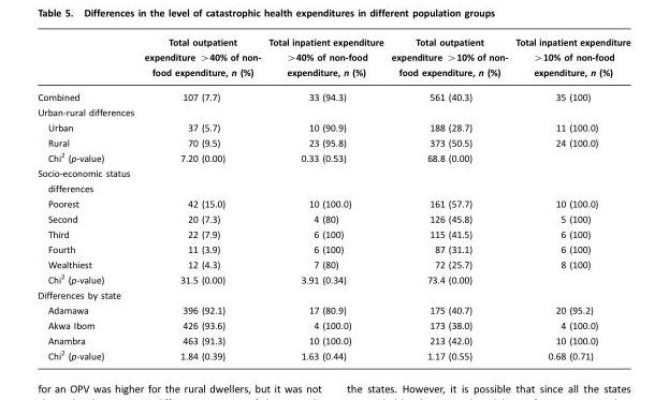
<table><thead><tr><td></td><td>Total outpatient expenditure &gt;40% of non- food expenditure, n (%)</td><td>Total inpatient expenditure &gt;40% of non-food expenditure, n (%)</td><td>Total outpatient expenditure &gt;10% of non- food expenditure, n (%)</td><td>Total inpatient expenditure &gt;10% of non-food expenditure, n (%)</td></tr></thead><tbody><tr><td>Combined</td><td>107 (7.7)</td><td>33 (94.3)</td><td>561 (40.3)</td><td>35 (100)</td></tr><tr><td colspan="5">Urban-rural differences</td></tr><tr><td>Urban</td><td>37 (5.7)</td><td>10 (90.9)</td><td>188 (28.7)</td><td>11 (100.0)</td></tr><tr><td>Rural</td><td>70 (9.5)</td><td>23 (95.8)</td><td>373 (50.5)</td><td>24 (100.0)</td></tr><tr><td>Chi<sup>2</sup> (p-value)</td><td>7.20 (0.00)</td><td>0.33 (0.53)</td><td>68.8 (0.00)</td><td></td></tr><tr><td colspan="5">Socio-economic status differences</td></tr><tr><td>Poorest</td><td>42 (15.0)</td><td>10 (100.0)</td><td>161 (57.7)</td><td>10 (100.0)</td></tr><tr><td>Second</td><td>20 (7.3)</td><td>4 (80)</td><td>126 (45.8)</td><td>5 (100)</td></tr><tr><td>Third</td><td>22 (7.9)</td><td>6 (100)</td><td>115 (41.5)</td><td>6 (100)</td></tr><tr><td>Fourth</td><td>11 (3.9)</td><td>6 (100)</td><td>87 (31.1)</td><td>6 (100)</td></tr><tr><td>Wealthiest</td><td>12 (4.3)</td><td>7 (80)</td><td>72 (25.7)</td><td>8 (100)</td></tr><tr><td>Chi<sup>2</sup> (p-value)</td><td>31.5 (0.00)</td><td>3.91 (0.34)</td><td>73.4 (0.00)</td><td></td></tr><tr><td colspan="5">Differences by state</td></tr><tr><td>Adamawa</td><td>396 (92.1)</td><td>17 (80.9)</td><td>175 (40.7)</td><td>20 (95.2)</td></tr><tr><td>Akwa Ibom</td><td>426 (93.6)</td><td>4 (100.0)</td><td>173 (38.0)</td><td>4 (100.0)</td></tr><tr><td>Anambra</td><td>463 (91.3)</td><td>10 (100.0)</td><td>213 (42.0)</td><td>10 (100.0)</td></tr><tr><td>Chi<sup>2</sup> (p-value)</td><td>1.84 (0.39)</td><td>1.63 (0.44)</td><td>1.17 (0.55)</td><td>0.68 (0.71)</td></tr></tbody></table>